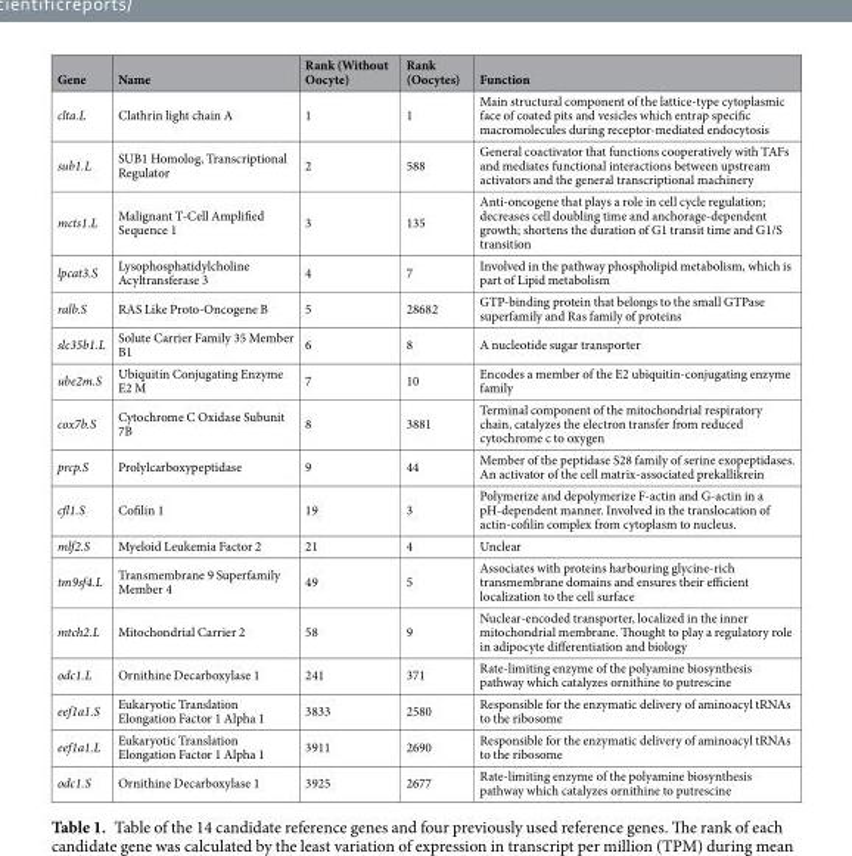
<table><thead><tr><td>Gene</td><td>Name</td><td>Rank (Without Oocyte)</td><td>Rank (Oocytes)</td><td>Function</td></tr></thead><tbody><tr><td>clta.L</td><td>Clathrin light chain A</td><td>1</td><td>1</td><td>Main structural component of the lattice-type cytoplasmic face of coated pits and vesicles which entrap specific macromolecules during receptor-mediated endocytosis</td></tr><tr><td>sub1.L</td><td>SUB1 Homolog, Transcriptional Regulator</td><td>2</td><td>588</td><td>General coactivator that functions cooperatively with TAFs and mediates functional interactions between upstream activators and the general transcriptional machinery</td></tr><tr><td>mcts1.L</td><td>Malignant T-Cell Amplified Sequence 1</td><td>3</td><td>135</td><td>Anti-oncogene that plays a role in cell cycle regulation; decreases cell doubling time and anchorage-dependent growth; shortens the duration of G1 transit time and G1/S transition</td></tr><tr><td>lpcat3.S</td><td>Lysophosphatidylcholine Acyltransferase 3</td><td>4</td><td>7</td><td>Involved in the pathway phospholipid metabolism, which is part of Lipid metabolism</td></tr><tr><td>ralb.S</td><td>RAS Like Proto-Oncogene B</td><td>5</td><td>28682</td><td>GTP-binding protein that belongs to the small GTPase superfamily and Ras family of proteins</td></tr><tr><td>slc35b1.L</td><td>Solute Carrier Family 35 Member B1</td><td>6</td><td>8</td><td>A nucleotide sugar transporter</td></tr><tr><td>ube2m.S</td><td>Ubiquitin Conjugating Enzyme E2 M</td><td>7</td><td>10</td><td>Encodes a member of the E2 ubiquitin-conjugating enzyme family</td></tr><tr><td>cox7b.S</td><td>Cytochrome C Oxidase Subunit 7B</td><td>8</td><td>3881</td><td>Terminal component of the mitochondrial respiratory chain, catalyzes the electron transfer from reduced cytochrome c to oxygen</td></tr><tr><td>prcp.S</td><td>Prolylcarboxypeptidase</td><td>9</td><td>44</td><td>Member of the peptidase S28 family of serine exopeptidases. An activator of the cell matrix-associated prekallikrein</td></tr><tr><td>cfl1.S</td><td>Cofilin 1</td><td>19</td><td>3</td><td>Polymerize and depolymerize F-actin and G-actin in a pH-dependent manner. Involved in the translocation of actin-cofilin complex from cytoplasm to nucleus.</td></tr><tr><td>mlf2.S</td><td>Myeloid Leukemia Factor 2</td><td>21</td><td>4</td><td>Unclear</td></tr><tr><td>tm9sf4.L</td><td>Transmembrane 9 Superfamily Member 4</td><td>49</td><td>5</td><td>Associates with proteins harbouring glycine-rich transmembrane domains and ensures their efficient localization to the cell surface</td></tr><tr><td>mtch2.L</td><td>Mitochondrial Carrier 2</td><td>58</td><td>9</td><td>Nuclear-encoded transporter, localized in the inner mitochondrial membrane. Thought to play a regulatory role in adipocyte differentiation and biology</td></tr><tr><td>odc1.L</td><td>Ornithine Decarboxylase 1</td><td>241</td><td>371</td><td>Rate-limiting enzyme of the polyamine biosynthesis pathway which catalyzes ornithine to putrescine</td></tr><tr><td>eef1a1.S</td><td>Eukaryotic Translation Elongation Factor 1 Alpha 1</td><td>3833</td><td>2580</td><td>Responsible for the enzymatic delivery of aminoacyl tRNAs to the ribosome</td></tr><tr><td>eef1a1.L</td><td>Eukaryotic Translation Elongation Factor 1 Alpha 1</td><td>3911</td><td>2690</td><td>Responsible for the enzymatic delivery of aminoacyl tRNAs to the ribosome</td></tr><tr><td>odc1.S</td><td>Ornithine Decarboxylase 1</td><td>3925</td><td>2677</td><td>Rate-limiting enzyme of the polyamine biosynthesis pathway which catalyzes ornithine to putrescine</td></tr></tbody></table>